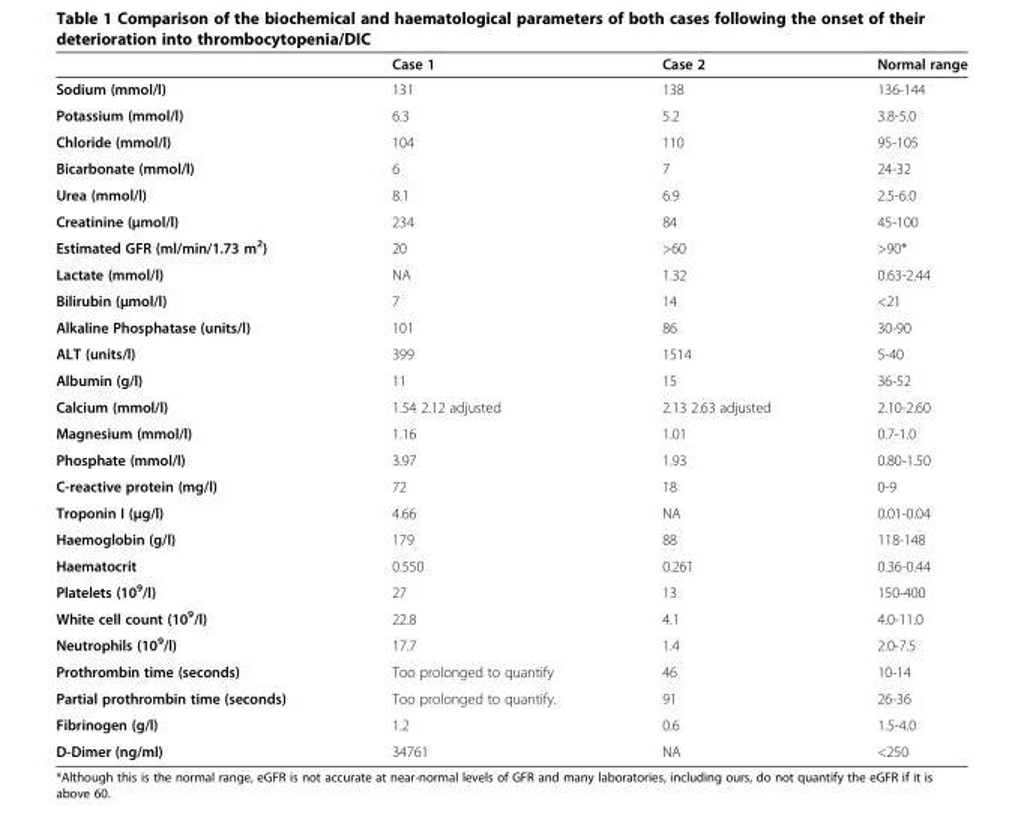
<table><thead><tr><td></td><td>Case 1</td><td>Case 2</td><td>Normal range</td></tr></thead><tbody><tr><td>Sodium (mmol/l)</td><td>131</td><td>138</td><td>136-144</td></tr><tr><td>Potassium (mmol/l)</td><td>6.3</td><td>5.2</td><td>3.8-5.0</td></tr><tr><td>Chloride (mmol/l)</td><td>104</td><td>110</td><td>95-105</td></tr><tr><td>Bicarbonate (mmol/l)</td><td>6</td><td>7</td><td>24-32</td></tr><tr><td>Urea (mmol/l)</td><td>8.1</td><td>6.9</td><td>2.5-6.0</td></tr><tr><td>Creatinine (μmol/l)</td><td>234</td><td>84</td><td>45-100</td></tr><tr><td>Estimated GFR (ml/min/1.73 m<sup>2</sup>)</td><td>20</td><td>&gt;60</td><td>&gt;90*</td></tr><tr><td>Lactate (mmol/l)</td><td>NA</td><td>1.32</td><td>0.63-2.44</td></tr><tr><td>Bilirubin (μmol/l)</td><td>7</td><td>14</td><td>&lt;21</td></tr><tr><td>Alkaline Phosphatase (units/l)</td><td>101</td><td>86</td><td>30-90</td></tr><tr><td>ALT (units/l)</td><td>399</td><td>1514</td><td>5-40</td></tr><tr><td>Albumin (g/l)</td><td>11</td><td>15</td><td>36-52</td></tr><tr><td>Calcium (mmol/l)</td><td>1.54 2.12 adjusted</td><td>2.13 2.63 adjusted</td><td>2.10-2.60</td></tr><tr><td>Magnesium (mmol/l)</td><td>1.16</td><td>1.01</td><td>0.7-1.0</td></tr><tr><td>Phosphate (mmol/l)</td><td>3.97</td><td>1.93</td><td>0.80-1.50</td></tr><tr><td>C-reactive protein (mg/l)</td><td>72</td><td>18</td><td>0-9</td></tr><tr><td>Troponin I (μg/l)</td><td>4.66</td><td>NA</td><td>0.01-0.04</td></tr><tr><td>Haemoglobin (g/l)</td><td>179</td><td>88</td><td>118-148</td></tr><tr><td>Haematocrit</td><td>0.550</td><td>0.261</td><td>0.36-0.44</td></tr><tr><td>Platelets (10<sup>9</sup>/l)</td><td>27</td><td>13</td><td>150-400</td></tr><tr><td>White cell count (10<sup>9</sup>/l)</td><td>22.8</td><td>4.1</td><td>4.0-11.0</td></tr><tr><td>Neutrophils (10<sup>9</sup>/l)</td><td>17.7</td><td>1.4</td><td>2.0-7.5</td></tr><tr><td>Prothrombin time (seconds)</td><td>Too prolonged to quantify</td><td>46</td><td>10-14</td></tr><tr><td>Partial prothrombin time (seconds)</td><td>Too prolonged to quantify.</td><td>91</td><td>26-36</td></tr><tr><td>Fibrinogen (g/l)</td><td>1.2</td><td>0.6</td><td>1.5-4.0</td></tr><tr><td>D-Dimer (ng/ml)</td><td>34761</td><td>NA</td><td>&lt;250</td></tr></tbody></table>